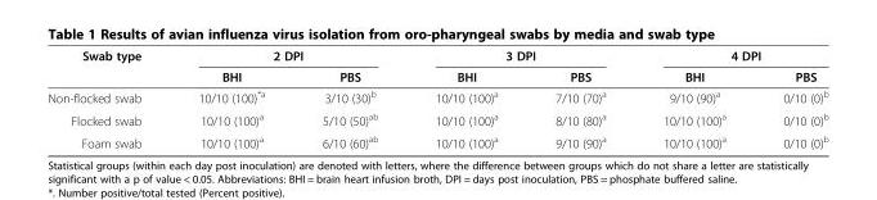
<table><thead><tr><td rowspan="2">Swab type</td><td colspan="2">2 DPI</td><td colspan="2">3 DPI</td><td colspan="2">4 DPI</td></tr><tr><td>BHI</td><td>PBS</td><td>BHI</td><td>PBS</td><td>BHI</td><td>PBS</td></tr></thead><tbody><tr><td>Non-flocked swab</td><td>10/10 (100)<sup>*a</sup></td><td>3/10 (30)<sup>b</sup></td><td>10/10 (100)<sup>a</sup></td><td>7/10 (70)<sup>a</sup></td><td>9/10 (90)<sup>a</sup></td><td>0/10 (0)<sup>b</sup></td></tr><tr><td>Flocked swab</td><td>10/10 (100)<sup>a</sup></td><td>5/10 (50)<sup>ab</sup></td><td>10/10 (100)<sup>a</sup></td><td>8/10 (80)<sup>a</sup></td><td>10/10 (100)<sup>a</sup></td><td>0/10 (0)<sup>b</sup></td></tr><tr><td>Foam swab</td><td>10/10 (100)<sup>a</sup></td><td>6/10 (60)<sup>ab</sup></td><td>10/10 (100)<sup>a</sup></td><td>9/10 (90)<sup>a</sup></td><td>10/10 (100)<sup>a</sup></td><td>0/10 (0)<sup>b</sup></td></tr></tbody></table>